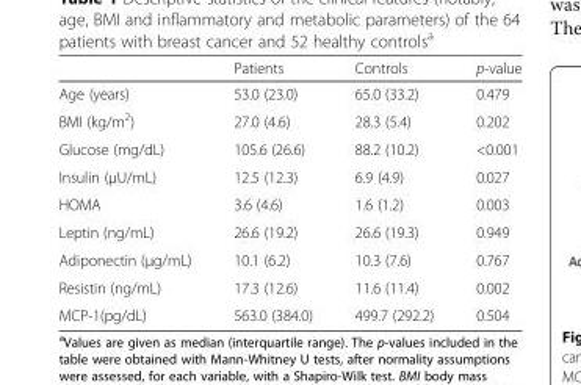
<table><thead><tr><td></td><td>Patients</td><td>Controls</td><td>p-value</td></tr></thead><tbody><tr><td>Age (years)</td><td>53.0 (23.0)</td><td>65.0 (33.2)</td><td>0.479</td></tr><tr><td>BMI (kg/m<sup>2</sup>)</td><td>27.0 (4.6)</td><td>28.3 (5.4)</td><td>0.202</td></tr><tr><td>Glucose (mg/dL)</td><td>105.6 (26.6)</td><td>88.2 (10.2)</td><td>&lt;0.001</td></tr><tr><td>Insulin (μU/mL)</td><td>12.5 (12.3)</td><td>6.9 (4.9)</td><td>0.027</td></tr><tr><td>HOMA</td><td>3.6 (4.6)</td><td>1.6 (1.2)</td><td>0.003</td></tr><tr><td>Leptin (ng/mL)</td><td>26.6 (19.2)</td><td>26.6 (19.3)</td><td>0.949</td></tr><tr><td>Adiponectin (μg/mL)</td><td>10.1 (6.2)</td><td>10.3 (7.6)</td><td>0.767</td></tr><tr><td>Resistin (ng/mL)</td><td>17.3 (12.6)</td><td>11.6 (11.4)</td><td>0.002</td></tr><tr><td>MCP-1(pg/dL)</td><td>563.0 (384.0)</td><td>499.7 (292.2)</td><td>0.504</td></tr></tbody></table>